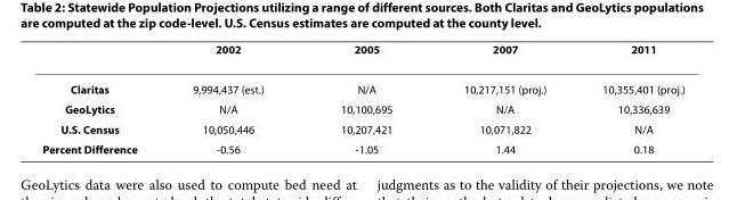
<table><thead><tr><td></td><td>2002</td><td>2005</td><td>2007</td><td>2011</td></tr></thead><tbody><tr><td>Claritas</td><td>9,994,437 (est.)</td><td>N/A</td><td>10,217,151 (proj.)</td><td>10,355,401 (proj.)</td></tr><tr><td>GeoLytics</td><td>N/A</td><td>10,100,695</td><td>N/A</td><td>10,336,639</td></tr><tr><td>U.S. Census</td><td>10,050,446</td><td>10,207,421</td><td>10,071,822</td><td>N/A</td></tr><tr><td>Percent Difference</td><td>-0.56</td><td>-1.05</td><td>1.44</td><td>0.18</td></tr></tbody></table>